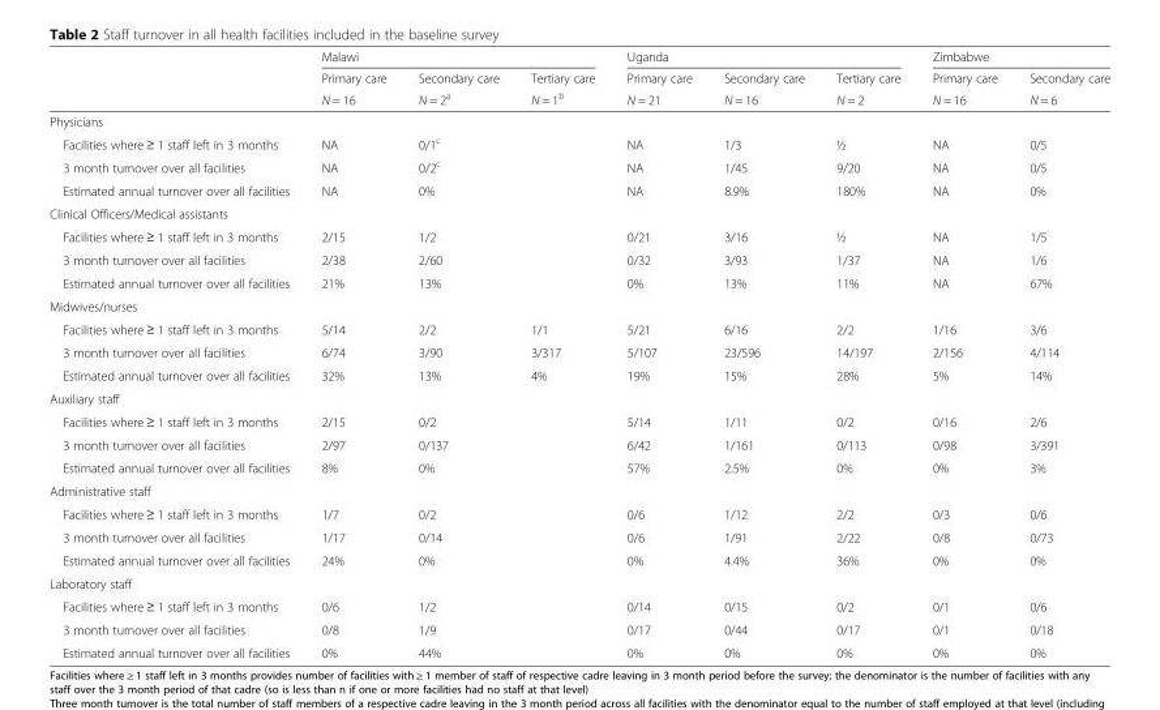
<table><thead><tr><td rowspan="3"></td><td colspan="3">Malawi</td><td colspan="3">Uganda</td><td colspan="2">Zimbabwe</td></tr><tr><td rowspan="2">Primary care N = 16</td><td rowspan="2">Secondary care N = 2<sup>a</sup></td><td rowspan="2">Tertiary care N = 1<sup>b</sup></td><td rowspan="2">Primary care N = 21</td><td rowspan="2">Secondary care N = 16</td><td rowspan="2">Tertiary care N = 2</td><td rowspan="2">Primary care N = 16</td><td rowspan="2">Secondary care N = 6</td></tr><tr></tr></thead><tbody><tr><td colspan="9">Physicians</td></tr><tr><td>Facilities where ≥ 1 staff left in 3 months</td><td>NA</td><td>0/1<sup>c</sup></td><td></td><td>NA</td><td>1/3</td><td>½</td><td>NA</td><td>0/5</td></tr><tr><td>3 month turnover over all facilities</td><td>NA</td><td>0/2<sup>c</sup></td><td></td><td>NA</td><td>1/45</td><td>9/20</td><td>NA</td><td>0/5</td></tr><tr><td>Estimated annual turnover over all facilities</td><td>NA</td><td>0%</td><td></td><td>NA</td><td>8.9%</td><td>180%</td><td>NA</td><td>0%</td></tr><tr><td colspan="9">Clinical Officers/Medical assistants</td></tr><tr><td>Facilities where ≥ 1 staff left in 3 months</td><td>2/15</td><td>1/2</td><td></td><td>0/21</td><td>3/16</td><td>½</td><td>NA</td><td>1/5</td></tr><tr><td>3 month turnover over all facilities</td><td>2/38</td><td>2/60</td><td></td><td>0/32</td><td>3/93</td><td>1/37</td><td>NA</td><td>1/6</td></tr><tr><td>Estimated annual turnover over all facilities</td><td>21%</td><td>13%</td><td></td><td>0%</td><td>13%</td><td>11%</td><td>NA</td><td>67%</td></tr><tr><td colspan="9">Midwives/nurses</td></tr><tr><td>Facilities where ≥ 1 staff left in 3 months</td><td>5/14</td><td>2/2</td><td>1/1</td><td>5/21</td><td>6/16</td><td>2/2</td><td>1/16</td><td>3/6</td></tr><tr><td>3 month turnover over all facilities</td><td>6/74</td><td>3/90</td><td>3/317</td><td>5/107</td><td>23/596</td><td>14/197</td><td>2/156</td><td>4/114</td></tr><tr><td>Estimated annual turnover over all facilities</td><td>32%</td><td>13%</td><td>4%</td><td>19%</td><td>15%</td><td>28%</td><td>5%</td><td>14%</td></tr><tr><td colspan="9">Auxiliary staff</td></tr><tr><td>Facilities where ≥ 1 staff left in 3 months</td><td>2/15</td><td>0/2</td><td></td><td>5/14</td><td>1/11</td><td>0/2</td><td>0/16</td><td>2/6</td></tr><tr><td>3 month turnover over all facilities</td><td>2/97</td><td>0/137</td><td></td><td>6/42</td><td>1/161</td><td>0/113</td><td>0/98</td><td>3/391</td></tr><tr><td>Estimated annual turnover over all facilities</td><td>8%</td><td>0%</td><td></td><td>57%</td><td>2.5%</td><td>0%</td><td>0%</td><td>3%</td></tr><tr><td colspan="9">Administrative staff</td></tr><tr><td>Facilities where ≥ 1 staff left in 3 months</td><td>1/7</td><td>0/2</td><td></td><td>0/6</td><td>1/12</td><td>2/2</td><td>0/3</td><td>0/6</td></tr><tr><td>3 month turnover over all facilities</td><td>1/17</td><td>0/14</td><td></td><td>0/6</td><td>1/91</td><td>2/22</td><td>0/8</td><td>0/73</td></tr><tr><td>Estimated annual turnover over all facilities</td><td>24%</td><td>0%</td><td></td><td>0%</td><td>4.4%</td><td>36%</td><td>0%</td><td>0%</td></tr><tr><td colspan="9">Laboratory staff</td></tr><tr><td>Facilities where ≥ 1 staff left in 3 months</td><td>0/6</td><td>1/2</td><td></td><td>0/14</td><td>0/15</td><td>0/2</td><td>0/1</td><td>0/6</td></tr><tr><td>3 month turnover over all facilities</td><td>0/8</td><td>1/9</td><td></td><td>0/17</td><td>0/44</td><td>0/17</td><td>0/1</td><td>0/18</td></tr><tr><td>Estimated annual turnover over all facilities</td><td>0%</td><td>44%</td><td></td><td>0%</td><td>0%</td><td>0%</td><td>0%</td><td>0%</td></tr></tbody></table>